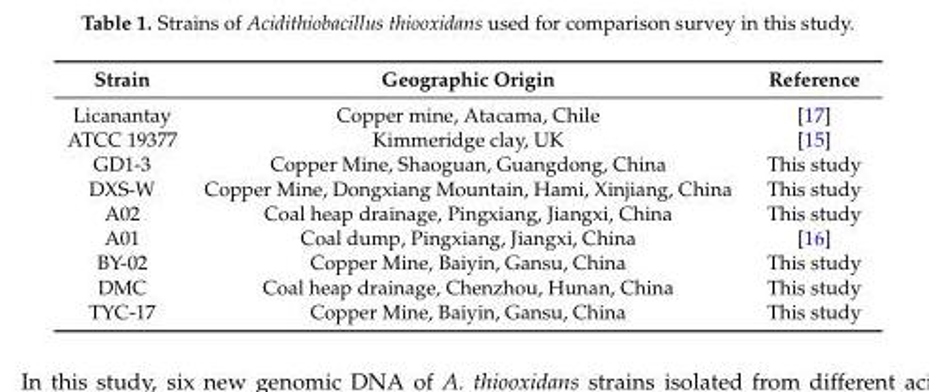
<table><thead><tr><td>Strain</td><td>Geographic Origin</td><td>Reference</td></tr></thead><tbody><tr><td>Licanantay</td><td>Copper mine, Atacama, Chile</td><td>[17]</td></tr><tr><td>ATCC 19377</td><td>Kimmeridge clay, UK</td><td>[15]</td></tr><tr><td>GD1-3</td><td>Copper Mine, Shaoguan, Guangdong, China</td><td>This study</td></tr><tr><td>DXS-W</td><td>Copper Mine, Dongxiang Mountain, Hami, Xinjiang, China</td><td>This study</td></tr><tr><td>A02</td><td>Coal heap drainage, Pingxiang, Jiangxi, China</td><td>This study</td></tr><tr><td>A01</td><td>Coal dump, Pingxiang, Jiangxi, China</td><td>[16]</td></tr><tr><td>BY-02</td><td>Copper Mine, Baiyin, Gansu, China</td><td>This study</td></tr><tr><td>DMC</td><td>Coal heap drainage, Chenzhou, Hunan, China</td><td>This study</td></tr><tr><td>TYC-17</td><td>Copper Mine, Baiyin, Gansu, China</td><td>This study</td></tr></tbody></table>